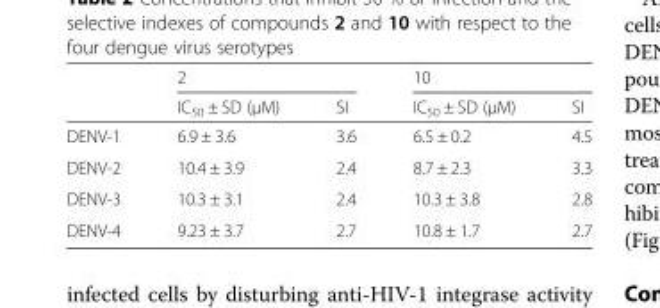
<table><thead><tr><td rowspan="2"></td><td colspan="2">2</td><td colspan="2">10</td></tr><tr><td>IC<sub>50</sub> ± SD (μM)</td><td>SI</td><td>IC<sub>50</sub> ± SD (μM)</td><td>SI</td></tr></thead><tbody><tr><td>DENV-1</td><td>6.9 ± 3.6</td><td>3.6</td><td>6.5 ± 0.2</td><td>4.5</td></tr><tr><td>DENV-2</td><td>10.4 ± 3.9</td><td>2.4</td><td>8.7 ± 2.3</td><td>3.3</td></tr><tr><td>DENV-3</td><td>10.3 ± 3.1</td><td>2.4</td><td>10.3 ± 3.8</td><td>2.8</td></tr><tr><td>DENV-4</td><td>9.23 ± 3.7</td><td>2.7</td><td>10.8 ± 1.7</td><td>2.7</td></tr></tbody></table>